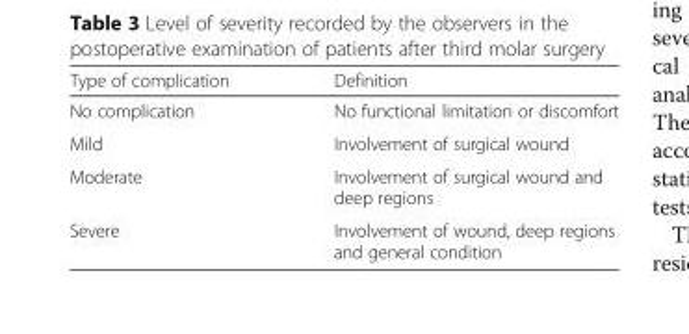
<table><thead><tr><td>Type of complication</td><td>Definition</td></tr></thead><tbody><tr><td>No complication</td><td>No functional limitation or discomfort</td></tr><tr><td>Mild</td><td>Involvement of surgical wound</td></tr><tr><td>Moderate</td><td>Involvement of surgical wound and deep regions</td></tr><tr><td>Severe</td><td>Involvement of wound, deep regions and general condition</td></tr></tbody></table>